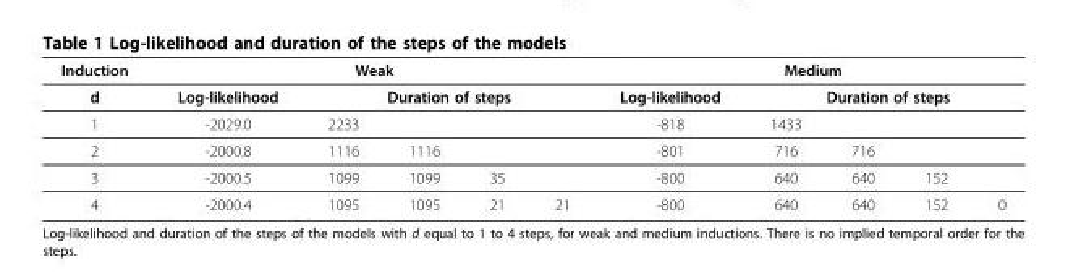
<table><thead><tr><td rowspan="3">Induction d 1</td><td colspan="5">Weak</td><td colspan="5">Medium</td></tr><tr><td rowspan="2">Log-likelihood -2029.0</td><td colspan="4">Duration of steps</td><td rowspan="2">Log-likelihood -818</td><td colspan="4">Duration of steps</td></tr><tr><td>2233</td><td></td><td></td><td></td><td>1433</td><td></td><td></td><td></td></tr></thead><tbody><tr><td>2</td><td>-2000.8</td><td>1116</td><td>1116</td><td></td><td></td><td>-801</td><td>716</td><td>716</td><td></td><td></td></tr><tr><td>3</td><td>-2000.5</td><td>1099</td><td>1099</td><td>35</td><td></td><td>-800</td><td>640</td><td>640</td><td>152</td><td></td></tr><tr><td>4</td><td>-2000.4</td><td>1095</td><td>1095</td><td>21</td><td>21</td><td>-800</td><td>640</td><td>640</td><td>152</td><td>0</td></tr></tbody></table>